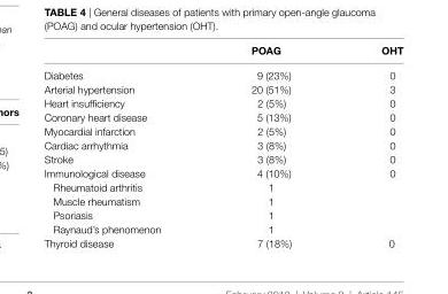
<table><thead><tr><td></td><td>POag</td><td>OhT</td></tr></thead><tbody><tr><td>Diabetes</td><td>9 (23%)</td><td>0</td></tr><tr><td>Arterial hypertension</td><td>20 (51%)</td><td>3</td></tr><tr><td>Heart insufficiency</td><td>2 (5%)</td><td>0</td></tr><tr><td>Coronary heart disease</td><td>5 (13%)</td><td>0</td></tr><tr><td>Myocardial infarction</td><td>2 (5%)</td><td>0</td></tr><tr><td>Cardiac arrhythmia</td><td>3 (8%)</td><td>0</td></tr><tr><td>Stroke</td><td>3 (8%)</td><td>0</td></tr><tr><td>Immunological disease</td><td>4 (10%)</td><td>0</td></tr><tr><td>Rheumatoid arthritis</td><td>1</td><td></td></tr><tr><td>Muscle rheumatism</td><td>1</td><td></td></tr><tr><td>Psoriasis</td><td>1</td><td></td></tr><tr><td>Raynaud’s phenomenon</td><td>1</td><td></td></tr><tr><td>Thyroid disease</td><td>7 (18%)</td><td>0</td></tr></tbody></table>